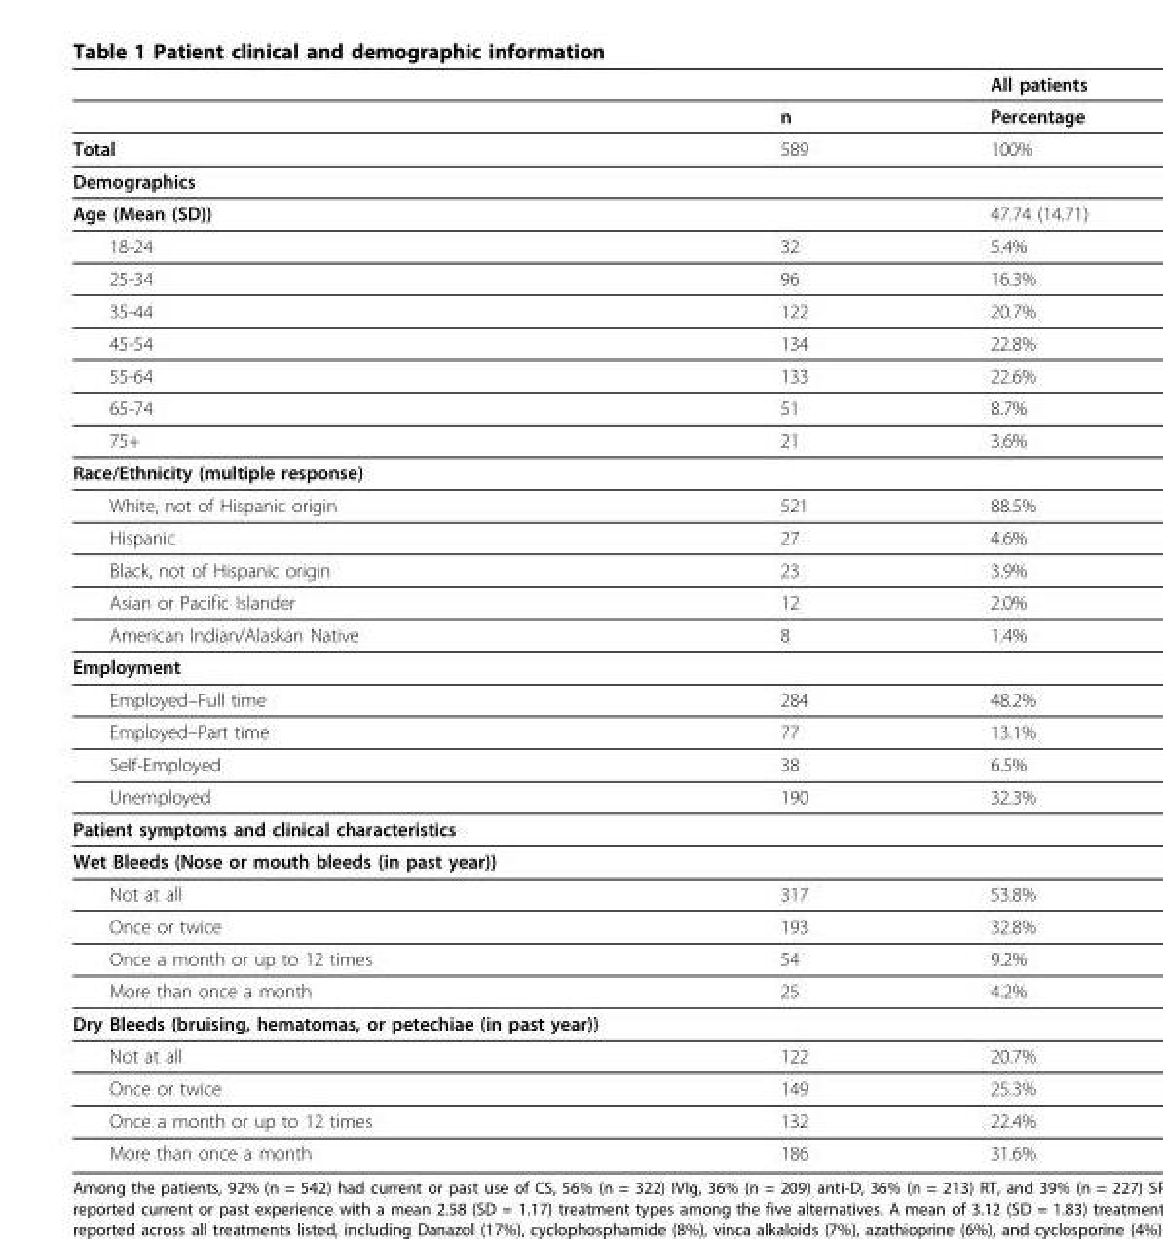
<table><thead><tr><td></td><td></td><td>All patients</td></tr></thead><tbody><tr><td></td><td>n</td><td>Percentage</td></tr><tr><td>Total</td><td>589</td><td>100%</td></tr><tr><td colspan="3">Demographics</td></tr><tr><td>Age (Mean (SD))</td><td></td><td>47.74 (14.71)</td></tr><tr><td>18-24</td><td>32</td><td>5.4%</td></tr><tr><td>25-34</td><td>96</td><td>16.3%</td></tr><tr><td>35-44</td><td>122</td><td>20.7%</td></tr><tr><td>45-54</td><td>134</td><td>22.8%</td></tr><tr><td>55-64</td><td>133</td><td>22.6%</td></tr><tr><td>65-74</td><td>51</td><td>8.7%</td></tr><tr><td>75+</td><td>21</td><td>3.6%</td></tr><tr><td colspan="3">Race/Ethnicity (multiple response)</td></tr><tr><td>White, not of Hispanic origin</td><td>521</td><td>88.5%</td></tr><tr><td>Hispanic</td><td>27</td><td>4.6%</td></tr><tr><td>Black, not of Hispanic origin</td><td>23</td><td>3.9%</td></tr><tr><td>Asian or Pacific Islander</td><td>12</td><td>2.0%</td></tr><tr><td>American Indian/Alaskan Native</td><td>8</td><td>1.4%</td></tr><tr><td colspan="3">Employment</td></tr><tr><td>Employed–Full time</td><td>284</td><td>48.2%</td></tr><tr><td>Employed–Part time</td><td>77</td><td>13.1%</td></tr><tr><td>Self-Employed</td><td>38</td><td>6.5%</td></tr><tr><td>Unemployed</td><td>190</td><td>32.3%</td></tr><tr><td colspan="3">Patient symptoms and clinical characteristics</td></tr><tr><td colspan="3">Wet Bleeds (Nose or mouth bleeds (in past year))</td></tr><tr><td>Not at all</td><td>317</td><td>53.8%</td></tr><tr><td>Once or twice</td><td>193</td><td>32.8%</td></tr><tr><td>Once a month or up to 12 times</td><td>54</td><td>9.2%</td></tr><tr><td>More than once a month</td><td>25</td><td>4.2%</td></tr><tr><td colspan="3">Dry Bleeds (bruising, hematomas, or petechiae (in past year))</td></tr><tr><td>Not at all</td><td>122</td><td>20.7%</td></tr><tr><td>Once or twice</td><td>149</td><td>25.3%</td></tr><tr><td>Once a month or up to 12 times</td><td>132</td><td>22.4%</td></tr><tr><td>More than once a month</td><td>186</td><td>31.6%</td></tr></tbody></table>